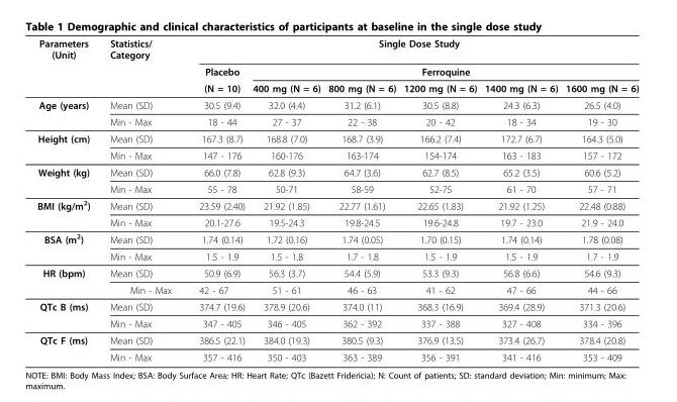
<table><thead><tr><td rowspan="3">Parameters (Unit)</td><td rowspan="3">Statistics/ Category</td><td colspan="6">Single Dose Study</td></tr><tr><td rowspan="2">Placebo (N = 10)</td><td colspan="5">Ferroquine</td></tr><tr><td>400 mg (N = 6)</td><td>800 mg (N = 6)</td><td>1200 mg (N = 6)</td><td>1400 mg (N = 6)</td><td>1600 mg (N = 6)</td></tr></thead><tbody><tr><td rowspan="2">Age (years)</td><td>Mean (SD)</td><td>30.5 (9.4)</td><td>32.0 (4.4)</td><td>31.2 (6.1)</td><td>30.5 (8.8)</td><td>24.3 (6.3)</td><td>26.5 (4.0)</td></tr><tr><td>Min - Max</td><td>18 - 44</td><td>27 - 37</td><td>22 - 38</td><td>20 - 42</td><td>18 - 34</td><td>19 - 30</td></tr><tr><td rowspan="2">Height (cm)</td><td>Mean (SD)</td><td>167.3 (8.7)</td><td>168.8 (7.0)</td><td>168.7 (3.9)</td><td>166.2 (7.4)</td><td>172.7 (6.7)</td><td>164.3 (5.0)</td></tr><tr><td>Min - Max</td><td>147 - 176</td><td>160-176</td><td>163-174</td><td>154-174</td><td>163 - 183</td><td>157 - 172</td></tr><tr><td rowspan="2">Weight (kg)</td><td>Mean (SD)</td><td>66.0 (7.8)</td><td>62.8 (9.3)</td><td>64.7 (3.6)</td><td>62.7 (8.5)</td><td>65.2 (3.5)</td><td>60.6 (5.2)</td></tr><tr><td>Min - Max</td><td>55 - 78</td><td>50-71</td><td>58-59</td><td>52-75</td><td>61 - 70</td><td>57 - 71</td></tr><tr><td rowspan="2">BMI (kg/m<sup>2</sup>)</td><td>Mean (SD)</td><td>23.59 (2.40)</td><td>21.92 (1.85)</td><td>22.77 (1.61)</td><td>22.65 (1.83)</td><td>21.92 (1.25)</td><td>22.48 (0.88)</td></tr><tr><td>Min - Max</td><td>20.1-27.6</td><td>19.5-24.3</td><td>19.8-24.5</td><td>19.6-24.8</td><td>19.7 - 23.0</td><td>21.9 - 24.0</td></tr><tr><td rowspan="2">BSA (m<sup>2</sup>)</td><td>Mean (SD)</td><td>1.74 (0.14)</td><td>1.72 (0.16)</td><td>1.74 (0.05)</td><td>1.70 (0.15)</td><td>1.74 (0.14)</td><td>1.78 (0.08)</td></tr><tr><td>Min - Max</td><td>1.5 - 1.9</td><td>1.5 - 1.8</td><td>1.7 - 1.8</td><td>1.5 - 1.9</td><td>1.5 - 1.9</td><td>1.7 - 1.9</td></tr><tr><td rowspan="2">HR (bpm)</td><td>Mean (SD)</td><td>50.9 (6.9)</td><td>56.3 (3.7)</td><td>54.4 (5.9)</td><td>53.3 (9.3)</td><td>56.8 (6.6)</td><td>54.6 (9.3)</td></tr><tr><td>Min - Max</td><td>42 - 67</td><td>51 - 61</td><td>46 - 63</td><td>41 - 62</td><td>47 - 66</td><td>44 - 66</td></tr><tr><td rowspan="2">QTc B (ms)</td><td>Mean (SD)</td><td>374.7 (19.6)</td><td>378.9 (20.6)</td><td>374.0 (11)</td><td>368.3 (16.9)</td><td>369.4 (28.9)</td><td>371.3 (20.6)</td></tr><tr><td>Min - Max</td><td>347 - 405</td><td>346 - 405</td><td>362 - 392</td><td>337 - 388</td><td>327 - 408</td><td>334 - 396</td></tr><tr><td rowspan="2">QTc F (ms)</td><td>Mean (SD)</td><td>386.5 (22.1)</td><td>384.0 (19.3)</td><td>380.5 (9.3)</td><td>376.9 (13.5)</td><td>373.4 (26.7)</td><td>378.4 (20.8)</td></tr><tr><td>Min - Max</td><td>357 - 416</td><td>350 - 403</td><td>363 - 389</td><td>356 - 391</td><td>341 - 416</td><td>353 - 409</td></tr></tbody></table>